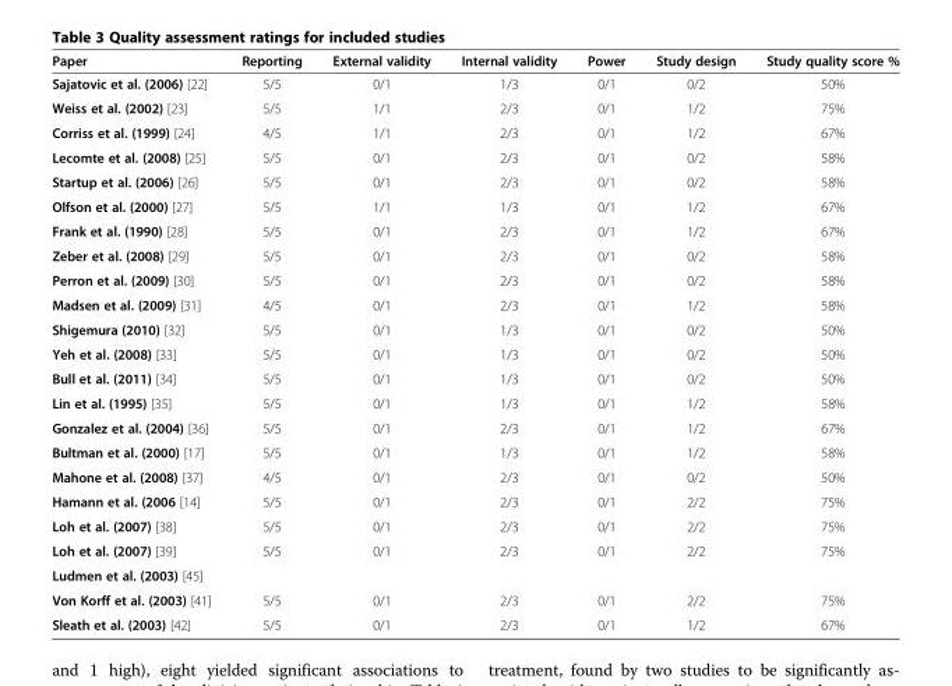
<table><thead><tr><td>Paper</td><td>Reporting</td><td>External validity</td><td>Internal validity</td><td>Power</td><td>Study design</td><td>Study quality score %</td></tr></thead><tbody><tr><td>Sajatovic et al. (2006) [22]</td><td>5/5</td><td>0/1</td><td>1/3</td><td>0/1</td><td>0/2</td><td>50%</td></tr><tr><td>Weiss et al. (2002) [23]</td><td>5/5</td><td>1/1</td><td>2/3</td><td>0/1</td><td>1/2</td><td>75%</td></tr><tr><td>Corriss et al. (1999) [24]</td><td>4/5</td><td>1/1</td><td>2/3</td><td>0/1</td><td>1/2</td><td>67%</td></tr><tr><td>Lecomte et al. (2008) [25]</td><td>5/5</td><td>0/1</td><td>2/3</td><td>0/1</td><td>0/2</td><td>58%</td></tr><tr><td>Startup et al. (2006) [26]</td><td>5/5</td><td>0/1</td><td>2/3</td><td>0/1</td><td>0/2</td><td>58%</td></tr><tr><td>Olfson et al. (2000) [27]</td><td>5/5</td><td>1/1</td><td>1/3</td><td>0/1</td><td>1/2</td><td>67%</td></tr><tr><td>Frank et al. (1990) [28]</td><td>5/5</td><td>0/1</td><td>2/3</td><td>0/1</td><td>1/2</td><td>67%</td></tr><tr><td>Zeber et al. (2008) [29]</td><td>5/5</td><td>0/1</td><td>2/3</td><td>0/1</td><td>0/2</td><td>58%</td></tr><tr><td>Perron et al. (2009) [30]</td><td>5/5</td><td>0/1</td><td>2/3</td><td>0/1</td><td>0/2</td><td>58%</td></tr><tr><td>Madsen et al. (2009) [31]</td><td>4/5</td><td>0/1</td><td>2/3</td><td>0/1</td><td>1/2</td><td>58%</td></tr><tr><td>Shigemura (2010) [32]</td><td>5/5</td><td>0/1</td><td>1/3</td><td>0/1</td><td>0/2</td><td>50%</td></tr><tr><td>Yeh et al. (2008) [33]</td><td>5/5</td><td>0/1</td><td>1/3</td><td>0/1</td><td>0/2</td><td>50%</td></tr><tr><td>Bull et al. (2011) [34]</td><td>5/5</td><td>0/1</td><td>1/3</td><td>0/1</td><td>0/2</td><td>50%</td></tr><tr><td>Lin et al. (1995) [35]</td><td>5/5</td><td>0/1</td><td>1/3</td><td>0/1</td><td>1/2</td><td>58%</td></tr><tr><td>Gonzalez et al. (2004) [36]</td><td>5/5</td><td>0/1</td><td>2/3</td><td>0/1</td><td>1/2</td><td>67%</td></tr><tr><td>Bultman et al. (2000) [17]</td><td>5/5</td><td>0/1</td><td>1/3</td><td>0/1</td><td>1/2</td><td>58%</td></tr><tr><td>Mahone et al. (2008) [37]</td><td>4/5</td><td>0/1</td><td>2/3</td><td>0/1</td><td>0/2</td><td>50%</td></tr><tr><td>Hamann et al. (2006 [14]</td><td>5/5</td><td>0/1</td><td>2/3</td><td>0/1</td><td>2/2</td><td>75%</td></tr><tr><td>Loh et al. (2007) [38]</td><td>5/5</td><td>0/1</td><td>2/3</td><td>0/1</td><td>2/2</td><td>75%</td></tr><tr><td>Loh et al. (2007) [39]</td><td>5/5</td><td>0/1</td><td>2/3</td><td>0/1</td><td>2/2</td><td>75%</td></tr><tr><td colspan="7">Ludmen et al. (2003) [45]</td></tr><tr><td>Von Korff et al. (2003) [41]</td><td>5/5</td><td>0/1</td><td>2/3</td><td>0/1</td><td>2/2</td><td>75%</td></tr><tr><td>Sleath et al. (2003) [42]</td><td>5/5</td><td>0/1</td><td>2/3</td><td>0/1</td><td>1/2</td><td>67%</td></tr></tbody></table>